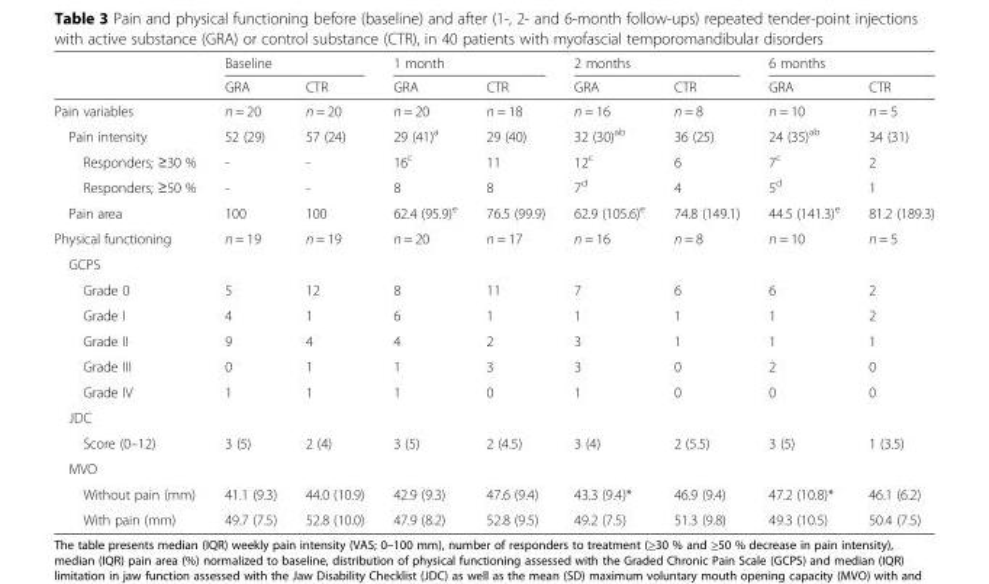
<table><thead><tr><td rowspan="2"></td><td colspan="2">Baseline</td><td colspan="2">1 month</td><td colspan="2">2 months</td><td colspan="2">6 months</td></tr><tr><td>GRA</td><td>CTR</td><td>GRA</td><td>CTR</td><td>GRA</td><td>CTR</td><td>GRA</td><td>CTR</td></tr></thead><tbody><tr><td>Pain variables</td><td>n = 20</td><td>n = 20</td><td>n = 20</td><td>n = 18</td><td>n = 16</td><td>n = 8</td><td>n = 10</td><td>n = 5</td></tr><tr><td>Pain intensity</td><td>52 (29)</td><td>57 (24)</td><td>29 (41)<sup>a</sup></td><td>29 (40)</td><td>32 (30)<sup>ab</sup></td><td>36 (25)</td><td>24 (35)<sup>ab</sup></td><td>34 (31)</td></tr><tr><td>Responders; ≥30 %</td><td>-</td><td>-</td><td>16<sup>c</sup></td><td>11</td><td>12<sup>c</sup></td><td>6</td><td>7<sup>c</sup></td><td>2</td></tr><tr><td>Responders; ≥50 %</td><td>-</td><td>-</td><td>8</td><td>8</td><td>7<sup>d</sup></td><td>4</td><td>5<sup>d</sup></td><td>1</td></tr><tr><td>Pain area</td><td>100</td><td>100</td><td>62.4 (95.9)<sup>e</sup></td><td>76.5 (99.9)</td><td>62.9 (105.6)<sup>e</sup></td><td>74.8 (149.1)</td><td>44.5 (141.3)<sup>e</sup></td><td>81.2 (189.3)</td></tr><tr><td>Physical functioning</td><td>n = 19</td><td>n = 19</td><td>n = 20</td><td>n = 17</td><td>n = 16</td><td>n = 8</td><td>n = 10</td><td>n = 5</td></tr><tr><td colspan="9">GCPS</td></tr><tr><td>Grade 0</td><td>5</td><td>12</td><td>8</td><td>11</td><td>7</td><td>6</td><td>6</td><td>2</td></tr><tr><td>Grade I</td><td>4</td><td>1</td><td>6</td><td>1</td><td>1</td><td>1</td><td>1</td><td>2</td></tr><tr><td>Grade II</td><td>9</td><td>4</td><td>4</td><td>2</td><td>3</td><td>1</td><td>1</td><td>1</td></tr><tr><td>Grade III</td><td>0</td><td>1</td><td>1</td><td>3</td><td>3</td><td>0</td><td>2</td><td>0</td></tr><tr><td>Grade IV</td><td>1</td><td>1</td><td>1</td><td>0</td><td>1</td><td>0</td><td>0</td><td>0</td></tr><tr><td colspan="9">JDC</td></tr><tr><td>Score (0–12)</td><td>3 (5)</td><td>2 (4)</td><td>3 (5)</td><td>2 (4.5)</td><td>3 (4)</td><td>2 (5.5)</td><td>3 (5)</td><td>1 (3.5)</td></tr><tr><td colspan="9">MVO</td></tr><tr><td>Without pain (mm)</td><td>41.1 (9.3)</td><td>44.0 (10.9)</td><td>42.9 (9.3)</td><td>47.6 (9.4)</td><td>43.3 (9.4)*</td><td>46.9 (9.4)</td><td>47.2 (10.8)*</td><td>46.1 (6.2)</td></tr><tr><td>With pain (mm)</td><td>49.7 (7.5)</td><td>52.8 (10.0)</td><td>47.9 (8.2)</td><td>52.8 (9.5)</td><td>49.2 (7.5)</td><td>51.3 (9.8)</td><td>49.3 (10.5)</td><td>50.4 (7.5)</td></tr></tbody></table>